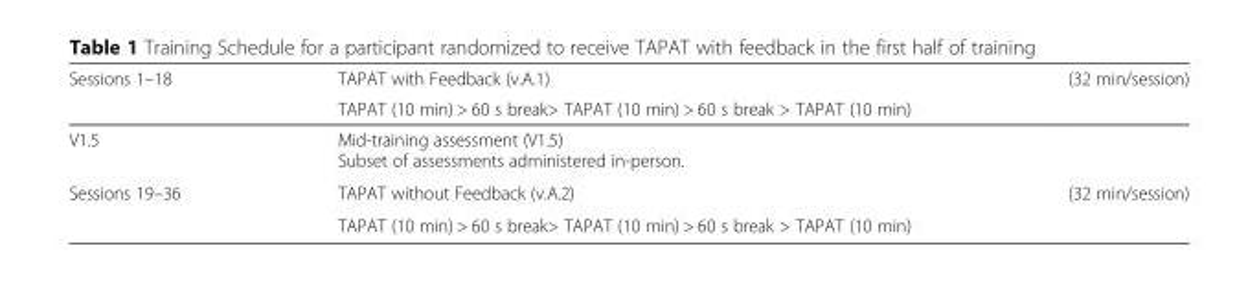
<table><thead><tr><td rowspan="2">Sessions 1–18</td><td rowspan="2">TAPAT with Feedback (v.A.1) TAPAT (10 min) &gt; 60 s break&gt; TAPAT (10 min) &gt; 60 s break &gt; TAPAT (10 min)</td><td rowspan="2">(32 min/session)</td></tr><tr></tr></thead><tbody><tr><td>V1.5</td><td colspan="2">Mid-training assessment (V1.5) Subset of assessments administered in-person.</td></tr><tr><td rowspan="2">Sessions 19–36</td><td>TAPAT without Feedback (v.A.2)</td><td>(32 min/session)</td></tr><tr><td>TAPAT (10 min) &gt; 60 s break&gt; TAPAT (10 min) &gt; 60 s break &gt; TAPAT (10 min)</td><td></td></tr></tbody></table>